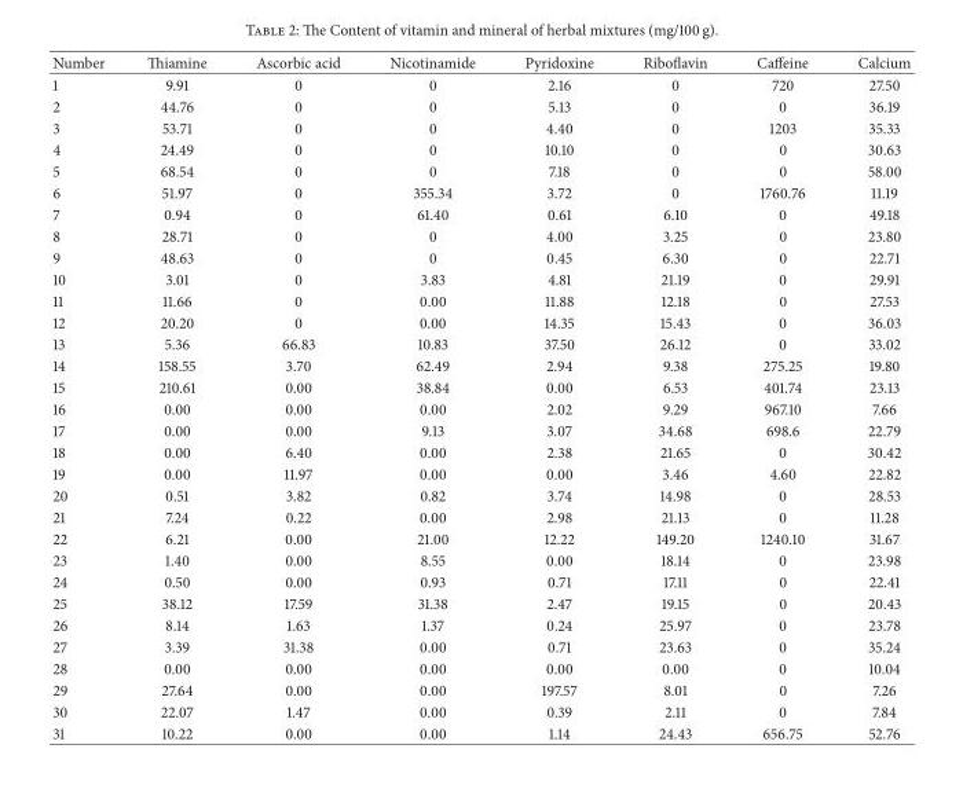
<table><thead><tr><td>Number</td><td>Thiamine</td><td>Ascorbic acid</td><td>Nicotinamide</td><td>Pyridoxine</td><td>Riboflavin</td><td>Caffeine</td><td>Calcium</td></tr></thead><tbody><tr><td>1</td><td>9.91</td><td>0</td><td>0</td><td>2.16</td><td>0</td><td>720</td><td>27.50</td></tr><tr><td>2</td><td>44.76</td><td>0</td><td>0</td><td>5.13</td><td>0</td><td>0</td><td>36.19</td></tr><tr><td>3</td><td>53.71</td><td>0</td><td>0</td><td>4.40</td><td>0</td><td>1203</td><td>35.33</td></tr><tr><td>4</td><td>24.49</td><td>0</td><td>0</td><td>10.10</td><td>0</td><td>0</td><td>30.63</td></tr><tr><td>5</td><td>68.54</td><td>0</td><td>0</td><td>7.18</td><td>0</td><td>0</td><td>58.00</td></tr><tr><td>6</td><td>51.97</td><td>0</td><td>355.34</td><td>3.72</td><td>0</td><td>1760.76</td><td>11.19</td></tr><tr><td>7</td><td>0.94</td><td>0</td><td>61.40</td><td>0.61</td><td>6.10</td><td>0</td><td>49.18</td></tr><tr><td>8</td><td>28.71</td><td>0</td><td>0</td><td>4.00</td><td>3.25</td><td>0</td><td>23.80</td></tr><tr><td>9</td><td>48.63</td><td>0</td><td>0</td><td>0.45</td><td>6.30</td><td>0</td><td>22.71</td></tr><tr><td>10</td><td>3.01</td><td>0</td><td>3.83</td><td>4.81</td><td>21.19</td><td>0</td><td>29.91</td></tr><tr><td>11</td><td>11.66</td><td>0</td><td>0.00</td><td>11.88</td><td>12.18</td><td>0</td><td>27.53</td></tr><tr><td>12</td><td>20.20</td><td>0</td><td>0.00</td><td>14.35</td><td>15.43</td><td>0</td><td>36.03</td></tr><tr><td>13</td><td>5.36</td><td>66.83</td><td>10.83</td><td>37.50</td><td>26.12</td><td>0</td><td>33.02</td></tr><tr><td>14</td><td>158.55</td><td>3.70</td><td>62.49</td><td>2.94</td><td>9.38</td><td>275.25</td><td>19.80</td></tr><tr><td>15</td><td>210.61</td><td>0.00</td><td>38.84</td><td>0.00</td><td>6.53</td><td>401.74</td><td>23.13</td></tr><tr><td>16</td><td>0.00</td><td>0.00</td><td>0.00</td><td>2.02</td><td>9.29</td><td>967.10</td><td>7.66</td></tr><tr><td>17</td><td>0.00</td><td>0.00</td><td>9.13</td><td>3.07</td><td>34.68</td><td>698.6</td><td>22.79</td></tr><tr><td>18</td><td>0.00</td><td>6.40</td><td>0.00</td><td>2.38</td><td>21.65</td><td>0</td><td>30.42</td></tr><tr><td>19</td><td>0.00</td><td>11.97</td><td>0.00</td><td>0.00</td><td>3.46</td><td>4.60</td><td>22.82</td></tr><tr><td>20</td><td>0.51</td><td>3.82</td><td>0.82</td><td>3.74</td><td>14.98</td><td>0</td><td>28.53</td></tr><tr><td>21</td><td>7.24</td><td>0.22</td><td>0.00</td><td>2.98</td><td>21.13</td><td>0</td><td>11.28</td></tr><tr><td>22</td><td>6.21</td><td>0.00</td><td>21.00</td><td>12.22</td><td>149.20</td><td>1240.10</td><td>31.67</td></tr><tr><td>23</td><td>1.40</td><td>0.00</td><td>8.55</td><td>0.00</td><td>18.14</td><td>0</td><td>23.98</td></tr><tr><td>24</td><td>0.50</td><td>0.00</td><td>0.93</td><td>0.71</td><td>17.11</td><td>0</td><td>22.41</td></tr><tr><td>25</td><td>38.12</td><td>17.59</td><td>31.38</td><td>2.47</td><td>19.15</td><td>0</td><td>20.43</td></tr><tr><td>26</td><td>8.14</td><td>1.63</td><td>1.37</td><td>0.24</td><td>25.97</td><td>0</td><td>23.78</td></tr><tr><td>27</td><td>3.39</td><td>31.38</td><td>0.00</td><td>0.71</td><td>23.63</td><td>0</td><td>35.24</td></tr><tr><td>28</td><td>0.00</td><td>0.00</td><td>0.00</td><td>0.00</td><td>0.00</td><td>0</td><td>10.04</td></tr><tr><td>29</td><td>27.64</td><td>0.00</td><td>0.00</td><td>197.57</td><td>8.01</td><td>0</td><td>7.26</td></tr><tr><td>30</td><td>22.07</td><td>1.47</td><td>0.00</td><td>0.39</td><td>2.11</td><td>0</td><td>7.84</td></tr><tr><td>31</td><td>10.22</td><td>0.00</td><td>0.00</td><td>1.14</td><td>24.43</td><td>656.75</td><td>52.76</td></tr></tbody></table>